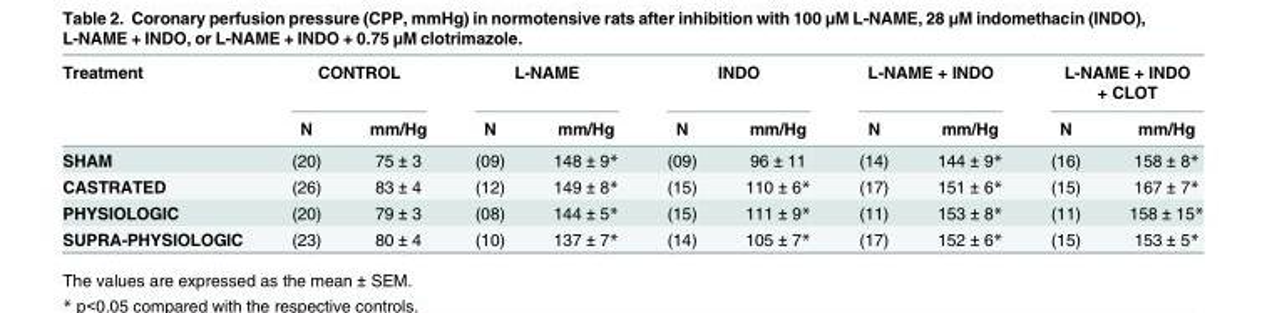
<table><thead><tr><td rowspan="2">Treatment</td><td colspan="2">CONTROL</td><td colspan="2">L-NAME</td><td colspan="2">INDO</td><td colspan="2">L-NAME + INDO</td><td colspan="2">L-NAME + INDO + CLOT</td></tr><tr><td>N</td><td>mm/Hg</td><td>N</td><td>mm/Hg</td><td>N</td><td>mm/Hg</td><td>N</td><td>mm/Hg</td><td>N</td><td>mm/Hg</td></tr></thead><tbody><tr><td>SHAM</td><td>(20)</td><td>75 ± 3</td><td>(09)</td><td>148 ± 9*</td><td>(09)</td><td>96 ± 11</td><td>(14)</td><td>144 ± 9*</td><td>(16)</td><td>158 ± 8*</td></tr><tr><td>CASTRATED</td><td>(26)</td><td>83 ± 4</td><td>(12)</td><td>149 ± 8*</td><td>(15)</td><td>110 ± 6*</td><td>(17)</td><td>151 ± 6*</td><td>(15)</td><td>167 ± 7*</td></tr><tr><td>PHYSIOLOGIC</td><td>(20)</td><td>79 ± 3</td><td>(08)</td><td>144 ± 5*</td><td>(15)</td><td>111 ± 9*</td><td>(11)</td><td>153 ± 8*</td><td>(11)</td><td>158 ± 15*</td></tr><tr><td>SUPRA-PHYSIOLOGIC</td><td>(23)</td><td>80 ± 4</td><td>(10)</td><td>137 ± 7*</td><td>(14)</td><td>105 ± 7*</td><td>(17)</td><td>152 ± 6*</td><td>(15)</td><td>153 ± 5*</td></tr></tbody></table>